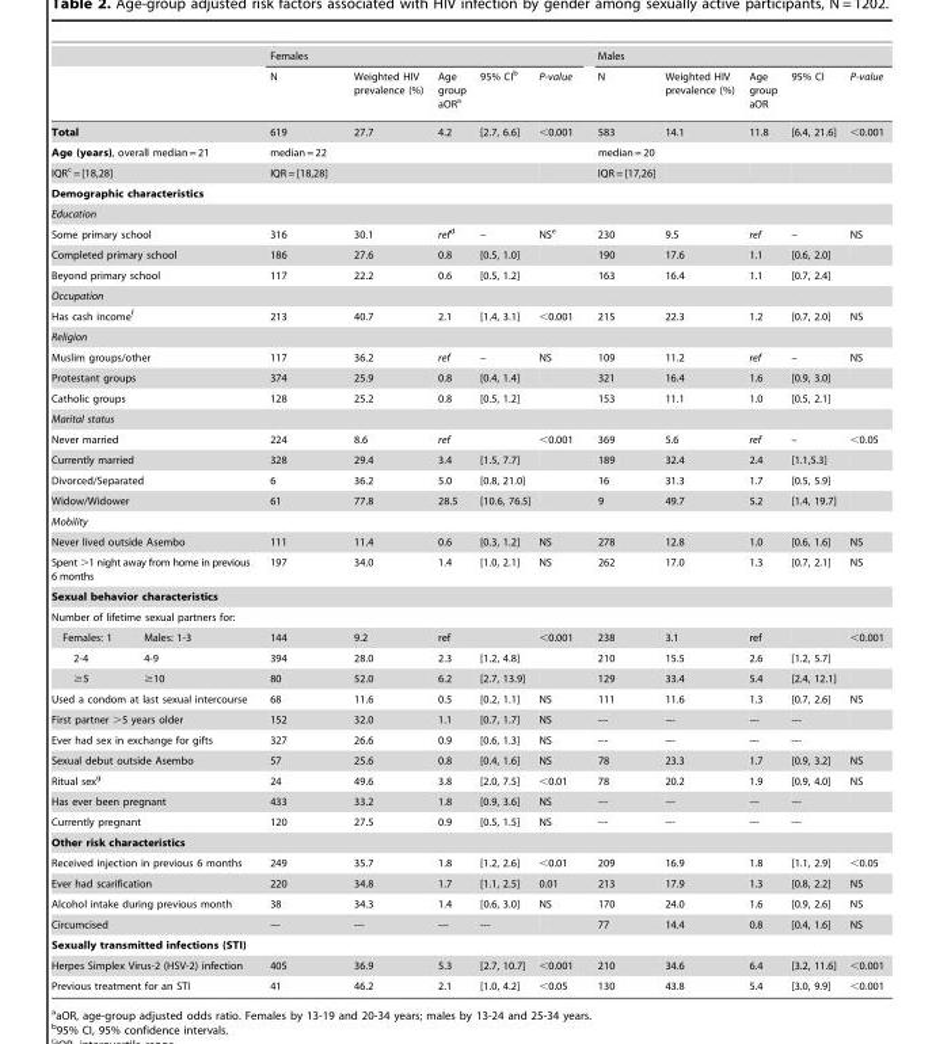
<table><thead><tr><td></td><td></td><td colspan="5">Females</td><td colspan="5">Males</td></tr><tr><td colspan="2"></td><td>N</td><td>Weighted HIV prevalence (%)</td><td>Age group aOR<sup>a</sup></td><td>95% CI<sup>b</sup></td><td>P-value</td><td>N</td><td>Weighted HIV prevalence (%)</td><td>Age group aOR</td><td>95% CI</td><td>P-value</td></tr></thead><tbody><tr><td colspan="2">Total</td><td>619</td><td>27.7</td><td>4.2</td><td>[2.7, 6.6]</td><td>&lt;0.001</td><td>583</td><td>14.1</td><td>11.8</td><td>[6.4, 21.6]</td><td>&lt;0.001</td></tr><tr><td colspan="2">Age (years), overall median = 21</td><td>median = 22</td><td></td><td></td><td></td><td></td><td>median = 20</td><td></td><td></td><td></td><td></td></tr><tr><td colspan="2">IQRc = [18,28]</td><td>IQR = [18,28]</td><td></td><td></td><td></td><td></td><td>IQR = [17,26]</td><td></td><td></td><td></td><td></td></tr><tr><td colspan="12">Demographic characteristics</td></tr><tr><td colspan="12">Education</td></tr><tr><td colspan="2">Some primary school</td><td>316</td><td>30.1</td><td>refd</td><td>–</td><td>NS<sup>e</sup></td><td>230</td><td>9.5</td><td>ref</td><td>–</td><td>NS</td></tr><tr><td colspan="2">Completed primary school</td><td>186</td><td>27.6</td><td>0.8</td><td>[0.5, 1.0]</td><td></td><td>190</td><td>17.6</td><td>1.1</td><td>[0.6, 2.0]</td><td></td></tr><tr><td colspan="2">Beyond primary school</td><td>117</td><td>22.2</td><td>0.6</td><td>[0.5, 1.2]</td><td></td><td>163</td><td>16.4</td><td>1.1</td><td>[0.7, 2.4]</td><td></td></tr><tr><td colspan="12">Occupation</td></tr><tr><td colspan="2">Has cash income<sup>f</sup></td><td>213</td><td>40.7</td><td>2.1</td><td>[1.4, 3.1]</td><td>&lt;0.001</td><td>215</td><td>22.3</td><td>1.2</td><td>[0.7, 2.0]</td><td>NS</td></tr><tr><td colspan="12">Religion</td></tr><tr><td colspan="2">Muslim groups/other</td><td>117</td><td>36.2</td><td>ref</td><td>–</td><td>NS</td><td>109</td><td>11.2</td><td>ref</td><td>–</td><td>NS</td></tr><tr><td colspan="2">Protestant groups</td><td>374</td><td>25.9</td><td>0.8</td><td>[0.4, 1.4]</td><td></td><td>321</td><td>16.4</td><td>1.6</td><td>[0.9, 3.0]</td><td></td></tr><tr><td colspan="2">Catholic groups</td><td>128</td><td>25.2</td><td>0.8</td><td>[0.5, 1.2]</td><td></td><td>153</td><td>11.1</td><td>1.0</td><td>[0.5, 2.1]</td><td></td></tr><tr><td colspan="12">Marital status</td></tr><tr><td colspan="2">Never married</td><td>224</td><td>8.6</td><td>ref</td><td></td><td>&lt;0.001</td><td>369</td><td>5.6</td><td>ref</td><td>–</td><td>&lt;0.05</td></tr><tr><td colspan="2">Currently married</td><td>328</td><td>29.4</td><td>3.4</td><td>[1.5, 7.7]</td><td></td><td>189</td><td>32.4</td><td>2.4</td><td>[1.1,5.3]</td><td></td></tr><tr><td colspan="2">Divorced/Separated</td><td>6</td><td>36.2</td><td>5.0</td><td>[0.8, 21.0]</td><td></td><td>16</td><td>31.3</td><td>1.7</td><td>[0.5, 5.9]</td><td></td></tr><tr><td colspan="2">Widow/Widower</td><td>61</td><td>77.8</td><td>28.5</td><td>[10.6, 76.5]</td><td></td><td>9</td><td>49.7</td><td>5.2</td><td>[1.4, 19.7]</td><td></td></tr><tr><td colspan="12">Mobility</td></tr><tr><td colspan="2">Never lived outside Asembo</td><td>111</td><td>11.4</td><td>0.6</td><td>[0.3, 1.2]</td><td>NS</td><td>278</td><td>12.8</td><td>1.0</td><td>[0.6, 1.6]</td><td>NS</td></tr><tr><td colspan="2">Spent &gt;1 night away from home in previous 6 months</td><td>197</td><td>34.0</td><td>1.4</td><td>[1.0, 2.1]</td><td>NS</td><td>262</td><td>17.0</td><td>1.3</td><td>[0.7, 2.1]</td><td>NS</td></tr><tr><td colspan="12">Sexual behavior characteristics</td></tr><tr><td colspan="12">Number of lifetime sexual partners for:</td></tr><tr><td>Females: 1</td><td>Males: 1-3</td><td>144</td><td>9.2</td><td>ref</td><td></td><td>&lt;0.001</td><td>238</td><td>3.1</td><td>ref</td><td></td><td>&lt;0.001</td></tr><tr><td>2-4</td><td>4-9</td><td>394</td><td>28.0</td><td>2.3</td><td>[1.2, 4.8]</td><td></td><td>210</td><td>15.5</td><td>2.6</td><td>[1.2, 5.7]</td><td></td></tr><tr><td>≥5</td><td>≥10</td><td>80</td><td>52.0</td><td>6.2</td><td>[2.7, 13.9]</td><td></td><td>129</td><td>33.4</td><td>5.4</td><td>[2.4, 12.1]</td><td></td></tr><tr><td colspan="2">Used a condom at last sexual intercourse</td><td>68</td><td>11.6</td><td>0.5</td><td>[0.2, 1.1]</td><td>NS</td><td>111</td><td>11.6</td><td>1.3</td><td>[0.7, 2.6]</td><td>NS</td></tr><tr><td colspan="2">First partner &gt;5 years older</td><td>152</td><td>32.0</td><td>1.1</td><td>[0.7, 1.7]</td><td>NS</td><td>---</td><td>---</td><td>---</td><td>---</td><td></td></tr><tr><td colspan="2">Ever had sex in exchange for gifts</td><td>327</td><td>26.6</td><td>0.9</td><td>[0.6, 1.3]</td><td>NS</td><td>---</td><td>---</td><td>---</td><td>---</td><td></td></tr><tr><td colspan="2">Sexual debut outside Asembo</td><td>57</td><td>25.6</td><td>0.8</td><td>[0.4, 1.6]</td><td>NS</td><td>78</td><td>23.3</td><td>1.7</td><td>[0.9, 3.2]</td><td>NS</td></tr><tr><td colspan="2">Ritual sex<sup>g</sup></td><td>24</td><td>49.6</td><td>3.8</td><td>[2.0, 7.5]</td><td>&lt;0.01</td><td>78</td><td>20.2</td><td>1.9</td><td>[0.9, 4.0]</td><td>NS</td></tr><tr><td colspan="2">Has ever been pregnant</td><td>433</td><td>33.2</td><td>1.8</td><td>[0.9, 3.6]</td><td>NS</td><td>---</td><td>---</td><td>---</td><td>---</td><td></td></tr><tr><td colspan="2">Currently pregnant</td><td>120</td><td>27.5</td><td>0.9</td><td>[0.5, 1.5]</td><td>NS</td><td>---</td><td>---</td><td>---</td><td>---</td><td></td></tr><tr><td colspan="12">Other risk characteristics</td></tr><tr><td colspan="2">Received injection in previous 6 months</td><td>249</td><td>35.7</td><td>1.8</td><td>[1.2, 2.6]</td><td>&lt;0.01</td><td>209</td><td>16.9</td><td>1.8</td><td>[1.1, 2.9]</td><td>&lt;0.05</td></tr><tr><td colspan="2">Ever had scarification</td><td>220</td><td>34.8</td><td>1.7</td><td>[1.1, 2.5]</td><td>0.01</td><td>213</td><td>17.9</td><td>1.3</td><td>[0.8, 2.2]</td><td>NS</td></tr><tr><td colspan="2">Alcohol intake during previous month</td><td>38</td><td>34.3</td><td>1.4</td><td>[0.6, 3.0]</td><td>NS</td><td>170</td><td>24.0</td><td>1.6</td><td>[0.9, 2.6]</td><td>NS</td></tr><tr><td colspan="2">Circumcised</td><td>---</td><td>---</td><td>---</td><td>---</td><td></td><td>77</td><td>14.4</td><td>0.8</td><td>[0.4, 1.6]</td><td>NS</td></tr><tr><td colspan="12">Sexually transmitted infections (STI)</td></tr><tr><td colspan="2">Herpes Simplex Virus-2 (HSV-2) infection</td><td>405</td><td>36.9</td><td>5.3</td><td>[2.7, 10.7]</td><td>&lt;0.001</td><td>210</td><td>34.6</td><td>6.4</td><td>[3.2, 11.6]</td><td>&lt;0.001</td></tr><tr><td colspan="2">Previous treatment for an STI</td><td>41</td><td>46.2</td><td>2.1</td><td>[1.0, 4.2]</td><td>&lt;0.05</td><td>130</td><td>43.8</td><td>5.4</td><td>[3.0, 9.9]</td><td>&lt;0.001</td></tr></tbody></table>